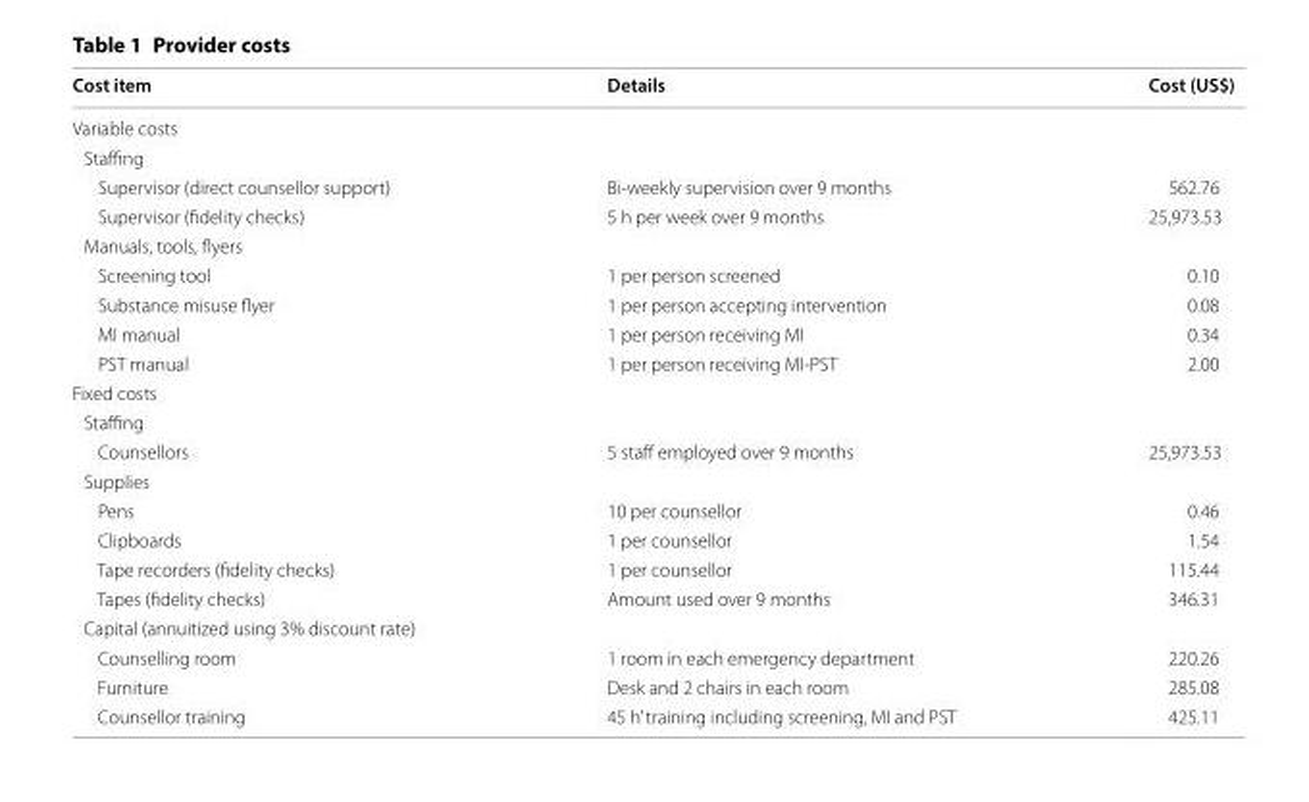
<table><thead><tr><td>Cost item</td><td>Details</td><td>Cost (US$)</td></tr></thead><tbody><tr><td colspan="3">Variable costs</td></tr><tr><td colspan="3">Staffing</td></tr><tr><td>Supervisor (direct counsellor support)</td><td>Bi-weekly supervision over 9 months</td><td>562.76</td></tr><tr><td>Supervisor (fidelity checks)</td><td>5 h per week over 9 months</td><td>25,973.53</td></tr><tr><td colspan="3">Manuals, tools, flyers</td></tr><tr><td>Screening tool</td><td>1 per person screened</td><td>0.10</td></tr><tr><td>Substance misuse flyer</td><td>1 per person accepting intervention</td><td>0.08</td></tr><tr><td>MI manual</td><td>1 per person receiving MI</td><td>0.34</td></tr><tr><td>PST manual</td><td>1 per person receiving MI-PST</td><td>2.00</td></tr><tr><td colspan="3">Fixed costs</td></tr><tr><td colspan="3">Staffing</td></tr><tr><td>Counsellors</td><td>5 staff employed over 9 months</td><td>25,973.53</td></tr><tr><td colspan="3">Supplies</td></tr><tr><td>Pens</td><td>10 per counsellor</td><td>0.46</td></tr><tr><td>Clipboards</td><td>1 per counsellor</td><td>1.54</td></tr><tr><td>Tape recorders (fidelity checks)</td><td>1 per counsellor</td><td>115.44</td></tr><tr><td>Tapes (fidelity checks)</td><td>Amount used over 9 months</td><td>346.31</td></tr><tr><td colspan="3">Capital (annuitized using 3% discount rate)</td></tr><tr><td>Counselling room</td><td>1 room in each emergency department</td><td>220.26</td></tr><tr><td>Furniture</td><td>Desk and 2 chairs in each room</td><td>285.08</td></tr><tr><td>Counsellor training</td><td>45 h’ training including screening, MI and PST</td><td>425.11</td></tr></tbody></table>